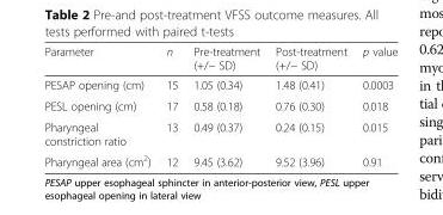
<table><thead><tr><td>Parameter</td><td>n</td><td>Pre-treatment (+/− SD)</td><td>Post-treatment (+/− SD)</td><td>p value</td></tr></thead><tbody><tr><td>PESAP opening (cm)</td><td>15</td><td>1.05 (0.34)</td><td>1.48 (0.41)</td><td>0.0003</td></tr><tr><td>PESL opening (cm)</td><td>17</td><td>0.58 (0.18)</td><td>0.76 (0.30)</td><td>0.018</td></tr><tr><td>Pharyngeal constriction ratio</td><td>13</td><td>0.49 (0.37)</td><td>0.24 (0.15)</td><td>0.015</td></tr><tr><td>Pharyngeal area (cm<sup>2</sup>)</td><td>12</td><td>9.45 (3.62)</td><td>9.52 (3.96)</td><td>0.91</td></tr></tbody></table>